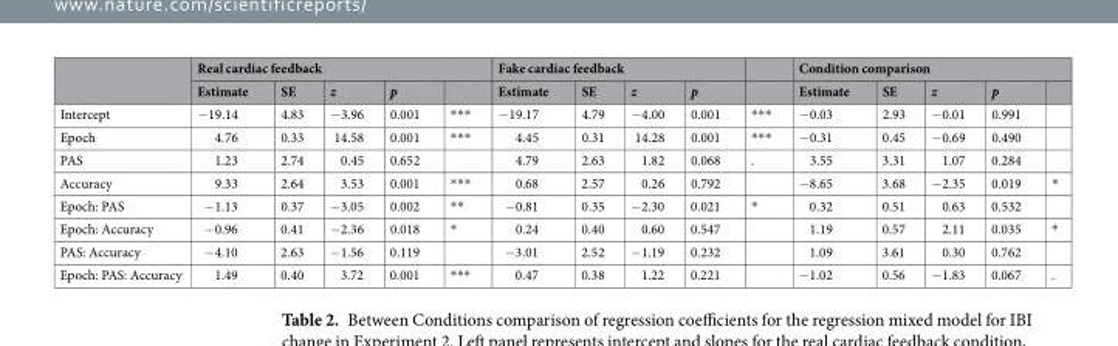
<table><thead><tr><td rowspan="2"></td><td colspan="5">Real cardiac feedback</td><td colspan="4">Fake cardiac feedback</td><td rowspan="2"></td><td colspan="5">Condition comparison</td></tr><tr><td>Estimate</td><td>SE</td><td>z</td><td>p</td><td></td><td>Estimate</td><td>SE</td><td>z</td><td>p</td><td>Estimate</td><td>SE</td><td>z</td><td>p</td><td></td></tr></thead><tbody><tr><td>Intercept</td><td>−19.14</td><td>4.83</td><td>−3.96</td><td>0.001</td><td>***</td><td>−19.17</td><td>4.79</td><td>−4.00</td><td>0.001</td><td>***</td><td>−0.03</td><td>2.93</td><td>−0.01</td><td>0.991</td><td></td></tr><tr><td>Epoch</td><td>4.76</td><td>0.33</td><td>14.58</td><td>0.001</td><td>***</td><td>4.45</td><td>0.31</td><td>14.28</td><td>0.001</td><td>***</td><td>−0.31</td><td>0.45</td><td>−0.69</td><td>0.490</td><td></td></tr><tr><td>PAS</td><td>1.23</td><td>2.74</td><td>0.45</td><td>0.652</td><td></td><td>4.79</td><td>2.63</td><td>1.82</td><td>0.068</td><td>.</td><td>3.55</td><td>3.31</td><td>1.07</td><td>0.284</td><td></td></tr><tr><td>Accuracy</td><td>9.33</td><td>2.64</td><td>3.53</td><td>0.001</td><td>***</td><td>0.68</td><td>2.57</td><td>0.26</td><td>0.792</td><td></td><td>−8.65</td><td>3.68</td><td>−2.35</td><td>0.019</td><td>*</td></tr><tr><td>Epoch: PAS</td><td>−1.13</td><td>0.37</td><td>−3.05</td><td>0.002</td><td>**</td><td>−0.81</td><td>0.35</td><td>−2.30</td><td>0.021</td><td>*</td><td>0.32</td><td>0.51</td><td>0.63</td><td>0.532</td><td></td></tr><tr><td>Epoch: Accuracy</td><td>−0.96</td><td>0.41</td><td>−2.36</td><td>0.018</td><td>*</td><td>0.24</td><td>0.40</td><td>0.60</td><td>0.547</td><td></td><td>1.19</td><td>0.57</td><td>2.11</td><td>0.035</td><td>*</td></tr><tr><td>PAS: Accuracy</td><td>−4.10</td><td>2.63</td><td>−1.56</td><td>0.119</td><td></td><td>−3.01</td><td>2.52</td><td>−1.19</td><td>0.232</td><td></td><td>1.09</td><td>3.61</td><td>0.30</td><td>0.762</td><td></td></tr><tr><td>Epoch: PAS: Accuracy</td><td>1.49</td><td>0.40</td><td>3.72</td><td>0.001</td><td>***</td><td>0.47</td><td>0.38</td><td>1.22</td><td>0.221</td><td></td><td>−1.02</td><td>0.56</td><td>−1.83</td><td>0.067</td><td>.</td></tr></tbody></table>